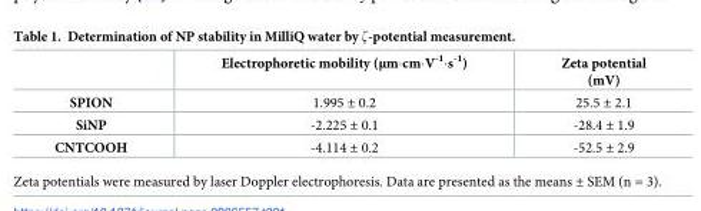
<table><thead><tr><td></td><td>Electrophoretic mobility (μm·cm·V<sup>-1</sup>·s<sup>-1</sup>)</td><td>Zeta potential (mV)</td></tr></thead><tbody><tr><td>SPION</td><td>1.995 ± 0.2</td><td>25.5 ± 2.1</td></tr><tr><td>SiNP</td><td>-2.225 ± 0.1</td><td>-28.4 ± 1.9</td></tr><tr><td>CNTCOOH</td><td>-4.114 ± 0.2</td><td>-52.5 ± 2.9</td></tr></tbody></table>